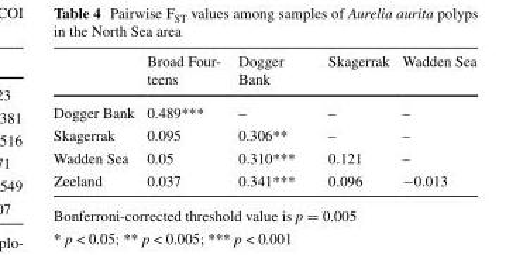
<table><thead><tr><td></td><td>Broad Four- teens</td><td>Dogger Bank</td><td>Skagerrak</td><td>Wadden Sea</td></tr></thead><tbody><tr><td>Dogger Bank</td><td>0.489***</td><td>–</td><td>–</td><td>–</td></tr><tr><td>Skagerrak</td><td>0.095</td><td>0.306**</td><td>–</td><td>–</td></tr><tr><td>Wadden Sea</td><td>0.05</td><td>0.310***</td><td>0.121</td><td>–</td></tr><tr><td>Zeeland</td><td>0.037</td><td>0.341***</td><td>0.096</td><td>−0.013</td></tr></tbody></table>